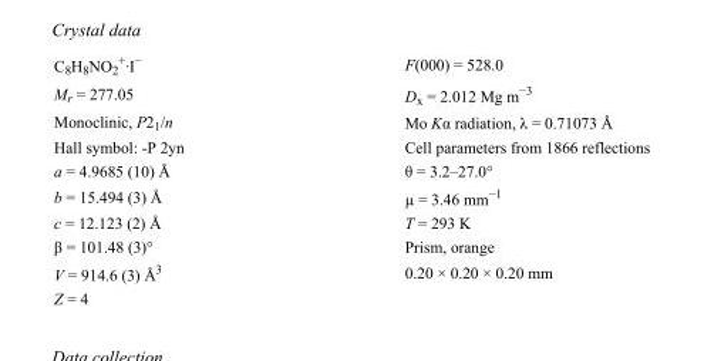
<table><tbody><tr><td>C<sub>8</sub>H<sub>8</sub>NO<sub>2</sub> <sup>+</sup>·I<sup>−</sup></td><td>F(000) = 528.0</td></tr><tr><td>M<sub>r</sub> = 277.05</td><td>D<sub>x</sub> = 2.012 Mg m<sup>−3</sup></td></tr><tr><td>Monoclinic, P2<sub>1</sub>/n</td><td>Mo Kα radiation, λ = 0.71073 Å</td></tr><tr><td>Hall symbol: -P 2yn</td><td>Cell parameters from 1866 reflections</td></tr><tr><td>a = 4.9685 (10) Å</td><td>θ = 3.2–27.0°</td></tr><tr><td>b = 15.494 (3) Å</td><td>µ = 3.46 mm<sup>−1</sup></td></tr><tr><td>c = 12.123 (2) Å</td><td>T = 293 K</td></tr><tr><td>β = 101.48 (3)°</td><td>Prism, orange</td></tr><tr><td>V = 914.6 (3) Å<sup>3</sup></td><td>0.20 × 0.20 × 0.20 mm</td></tr><tr><td>Z = 4</td><td></td></tr></tbody></table>